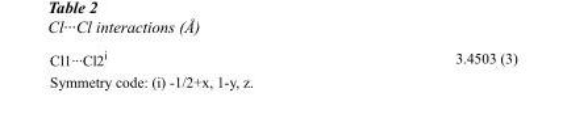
<table><tbody><tr><td>Cl1···Cl2<sup>i</sup></td><td>3.4503 (3)</td></tr></tbody></table>